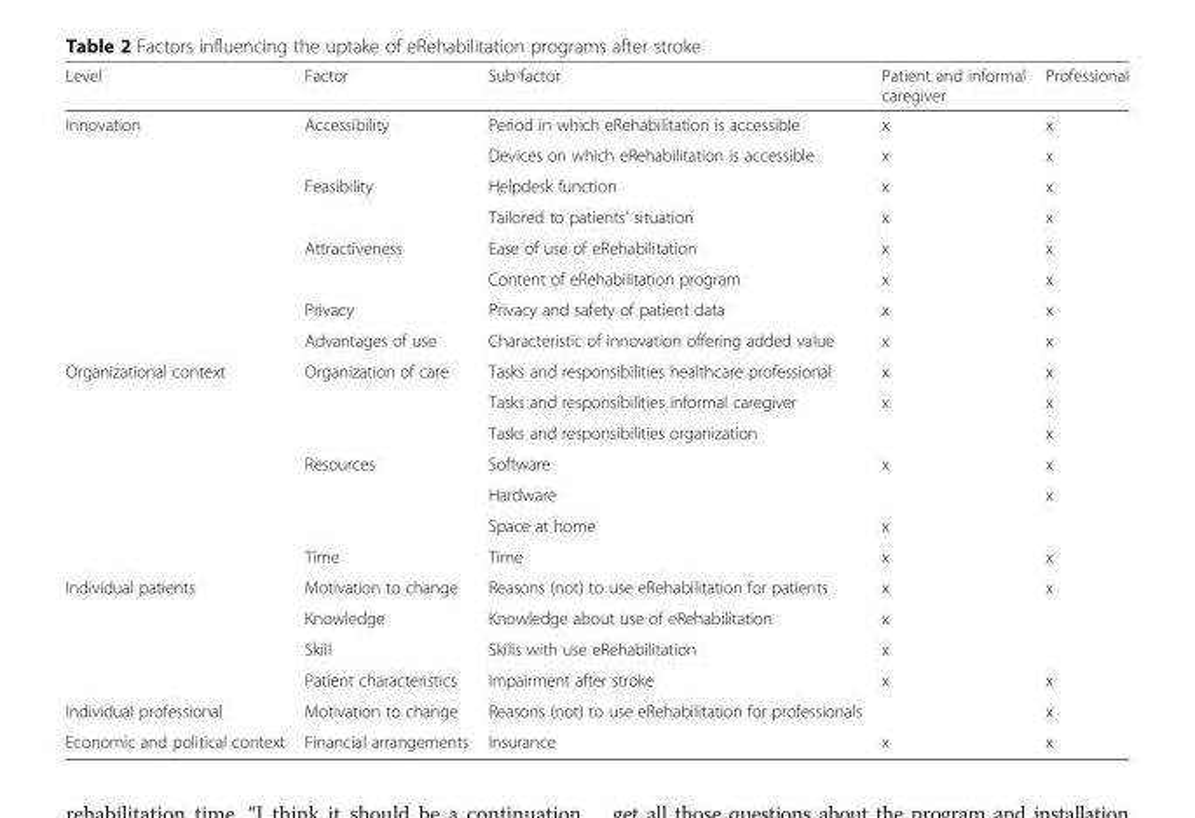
<table><thead><tr><td>Level</td><td>Factor</td><td>Sub-factor</td><td>Patient and informal caregiver</td><td>Professional</td></tr></thead><tbody><tr><td rowspan="8">Innovation</td><td rowspan="2">Accessibility</td><td>Period in which eRehabilitation is accessible</td><td>x</td><td>x</td></tr><tr><td>Devices on which eRehabilitation is accessible</td><td>x</td><td>x</td></tr><tr><td rowspan="2">Feasibility</td><td>Helpdesk function</td><td>x</td><td>x</td></tr><tr><td>Tailored to patients’ situation</td><td>x</td><td>x</td></tr><tr><td rowspan="2">Attractiveness</td><td>Ease of use of eRehabilitation</td><td>x</td><td>x</td></tr><tr><td>Content of eRehabilitation program</td><td>x</td><td>x</td></tr><tr><td>Privacy</td><td>Privacy and safety of patient data</td><td>x</td><td>x</td></tr><tr><td>Advantages of use</td><td>Characteristic of innovation offering added value</td><td>x</td><td>x</td></tr><tr><td rowspan="7">Organizational context</td><td rowspan="3">Organization of care</td><td>Tasks and responsibilities healthcare professional</td><td>x</td><td>x</td></tr><tr><td>Tasks and responsibilities informal caregiver</td><td>x</td><td>x</td></tr><tr><td>Tasks and responsibilities organization</td><td></td><td>x</td></tr><tr><td rowspan="3">Resources</td><td>Software</td><td>x</td><td>x</td></tr><tr><td>Hardware</td><td></td><td>x</td></tr><tr><td>Space at home</td><td>x</td><td></td></tr><tr><td>Time</td><td>Time</td><td>x</td><td>x</td></tr><tr><td rowspan="4">Individual patients</td><td>Motivation to change</td><td>Reasons (not) to use eRehabilitation for patients</td><td>x</td><td>x</td></tr><tr><td>Knowledge</td><td>Knowledge about use of eRehabilitation</td><td>x</td><td></td></tr><tr><td>Skill</td><td>Skills with use eRehabilitation</td><td>x</td><td></td></tr><tr><td>Patient characteristics</td><td>Impairment after stroke</td><td>x</td><td>x</td></tr><tr><td>Individual professional</td><td>Motivation to change</td><td>Reasons (not) to use eRehabilitation for professionals</td><td></td><td>x</td></tr><tr><td>Economic and political context</td><td>Financial arrangements</td><td>Insurance</td><td>x</td><td>x</td></tr></tbody></table>